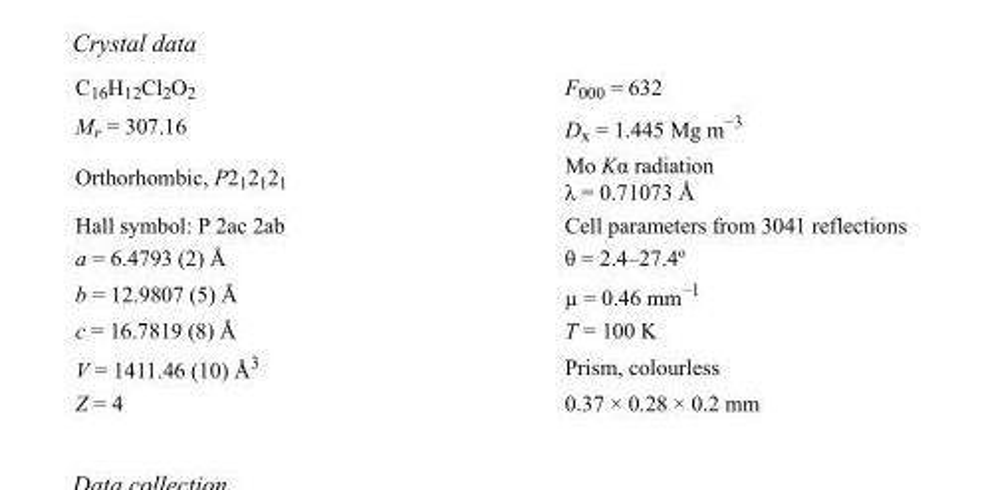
<table><tbody><tr><td>C<sub>16</sub>H<sub>12</sub>Cl<sub>2</sub>O<sub>2</sub></td><td>F000 = 632</td></tr><tr><td>M<sub>r</sub> = 307.16</td><td>D<sub>x</sub> = 1.445 Mg m<sup>−3</sup></td></tr><tr><td>Orthorhombic, P2<sub>1</sub>2<sub>1</sub>2<sub>1</sub></td><td>Mo Kα radiation λ = 0.71073 Å</td></tr><tr><td>Hall symbol: P 2ac 2ab</td><td>Cell parameters from 3041 reflections</td></tr><tr><td>a = 6.4793 (2) Å</td><td>θ = 2.4–27.4º</td></tr><tr><td>b = 12.9807 (5) Å</td><td>µ = 0.46 mm<sup>−1</sup></td></tr><tr><td>c = 16.7819 (8) Å</td><td>T = 100 K</td></tr><tr><td>V = 1411.46 (10) Å<sup>3</sup></td><td>Prism, colourless</td></tr><tr><td>Z = 4</td><td>0.37 × 0.28 × 0.2 mm</td></tr></tbody></table>